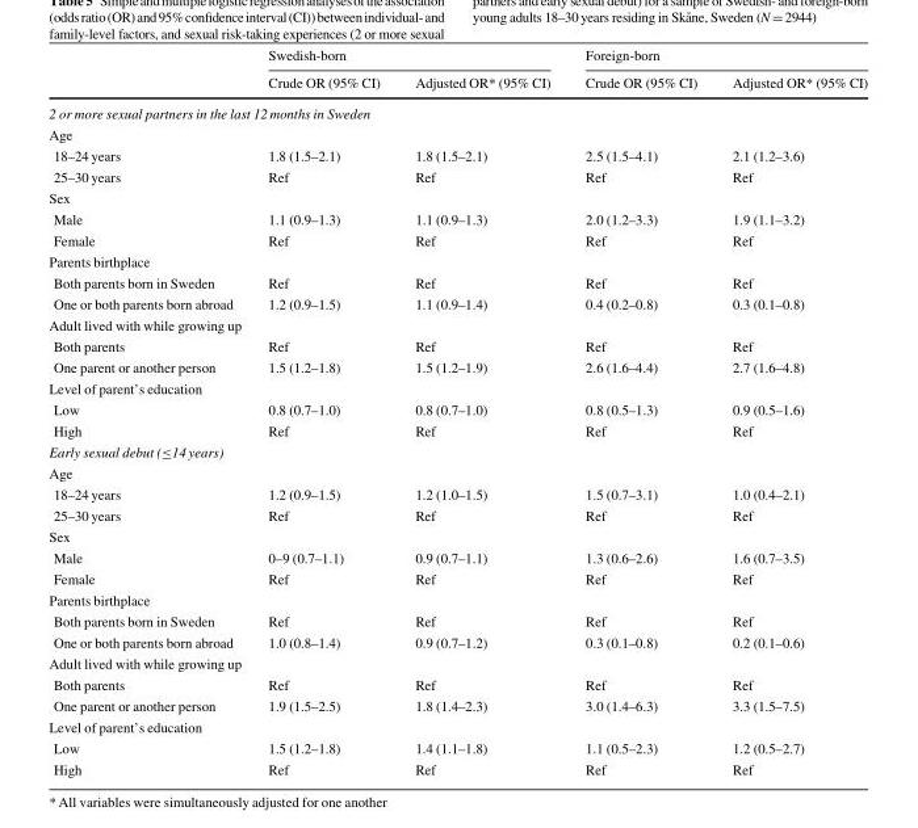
<table><thead><tr><td rowspan="2"></td><td colspan="2">Swedish-born</td><td colspan="2">Foreign-born</td></tr><tr><td>Crude OR (95% CI)</td><td>Adjusted OR* (95% CI)</td><td>Crude OR (95% CI)</td><td>Adjusted OR* (95% CI)</td></tr></thead><tbody><tr><td colspan="5">2 or more sexual partners in the last 12 months in Sweden</td></tr><tr><td colspan="5">Age</td></tr><tr><td>18–24 years</td><td>1.8 (1.5–2.1)</td><td>1.8 (1.5–2.1)</td><td>2.5 (1.5–4.1)</td><td>2.1 (1.2–3.6)</td></tr><tr><td>25–30 years</td><td>Ref</td><td>Ref</td><td>Ref</td><td>Ref</td></tr><tr><td colspan="5">Sex</td></tr><tr><td>Male</td><td>1.1 (0.9–1.3)</td><td>1.1 (0.9–1.3)</td><td>2.0 (1.2–3.3)</td><td>1.9 (1.1–3.2)</td></tr><tr><td>Female</td><td>Ref</td><td>Ref</td><td>Ref</td><td>Ref</td></tr><tr><td colspan="5">Parents birthplace</td></tr><tr><td>Both parents born in Sweden</td><td>Ref</td><td>Ref</td><td>Ref</td><td>Ref</td></tr><tr><td>One or both parents born abroad</td><td>1.2 (0.9–1.5)</td><td>1.1 (0.9–1.4)</td><td>0.4 (0.2–0.8)</td><td>0.3 (0.1–0.8)</td></tr><tr><td colspan="5">Adult lived with while growing up</td></tr><tr><td>Both parents</td><td>Ref</td><td>Ref</td><td>Ref</td><td>Ref</td></tr><tr><td>One parent or another person</td><td>1.5 (1.2–1.8)</td><td>1.5 (1.2–1.9)</td><td>2.6 (1.6–4.4)</td><td>2.7 (1.6–4.8)</td></tr><tr><td colspan="5">Level of parent’s education</td></tr><tr><td>Low</td><td>0.8 (0.7–1.0)</td><td>0.8 (0.7–1.0)</td><td>0.8 (0.5–1.3)</td><td>0.9 (0.5–1.6)</td></tr><tr><td>High</td><td>Ref</td><td>Ref</td><td>Ref</td><td>Ref</td></tr><tr><td colspan="5">Early sexual debut (≤14 years)</td></tr><tr><td colspan="5">Age</td></tr><tr><td>18–24 years</td><td>1.2 (0.9–1.5)</td><td>1.2 (1.0–1.5)</td><td>1.5 (0.7–3.1)</td><td>1.0 (0.4–2.1)</td></tr><tr><td>25–30 years</td><td>Ref</td><td>Ref</td><td>Ref</td><td>Ref</td></tr><tr><td colspan="5">Sex</td></tr><tr><td>Male</td><td>0–9 (0.7–1.1)</td><td>0.9 (0.7–1.1)</td><td>1.3 (0.6–2.6)</td><td>1.6 (0.7–3.5)</td></tr><tr><td>Female</td><td>Ref</td><td>Ref</td><td>Ref</td><td>Ref</td></tr><tr><td colspan="5">Parents birthplace</td></tr><tr><td>Both parents born in Sweden</td><td>Ref</td><td>Ref</td><td>Ref</td><td>Ref</td></tr><tr><td>One or both parents born abroad</td><td>1.0 (0.8–1.4)</td><td>0.9 (0.7–1.2)</td><td>0.3 (0.1–0.8)</td><td>0.2 (0.1–0.6)</td></tr><tr><td colspan="5">Adult lived with while growing up</td></tr><tr><td>Both parents</td><td>Ref</td><td>Ref</td><td>Ref</td><td>Ref</td></tr><tr><td>One parent or another person</td><td>1.9 (1.5–2.5)</td><td>1.8 (1.4–2.3)</td><td>3.0 (1.4–6.3)</td><td>3.3 (1.5–7.5)</td></tr><tr><td colspan="5">Level of parent’s education</td></tr><tr><td>Low</td><td>1.5 (1.2–1.8)</td><td>1.4 (1.1–1.8)</td><td>1.1 (0.5–2.3)</td><td>1.2 (0.5–2.7)</td></tr><tr><td>High</td><td>Ref</td><td>Ref</td><td>Ref</td><td>Ref</td></tr></tbody></table>